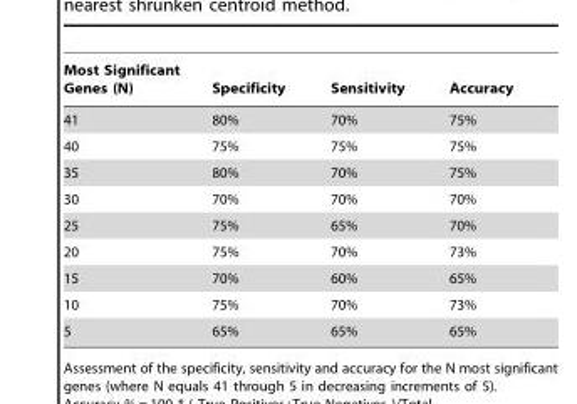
<table><thead><tr><td>Most Significant Genes (N)</td><td>Specificity</td><td>Sensitivity</td><td>Accuracy</td></tr></thead><tbody><tr><td>41</td><td>80%</td><td>70%</td><td>75%</td></tr><tr><td>40</td><td>75%</td><td>75%</td><td>75%</td></tr><tr><td>35</td><td>80%</td><td>70%</td><td>75%</td></tr><tr><td>30</td><td>70%</td><td>70%</td><td>70%</td></tr><tr><td>25</td><td>75%</td><td>65%</td><td>70%</td></tr><tr><td>20</td><td>75%</td><td>70%</td><td>73%</td></tr><tr><td>15</td><td>70%</td><td>60%</td><td>65%</td></tr><tr><td>10</td><td>75%</td><td>70%</td><td>73%</td></tr><tr><td>5</td><td>65%</td><td>65%</td><td>65%</td></tr></tbody></table>